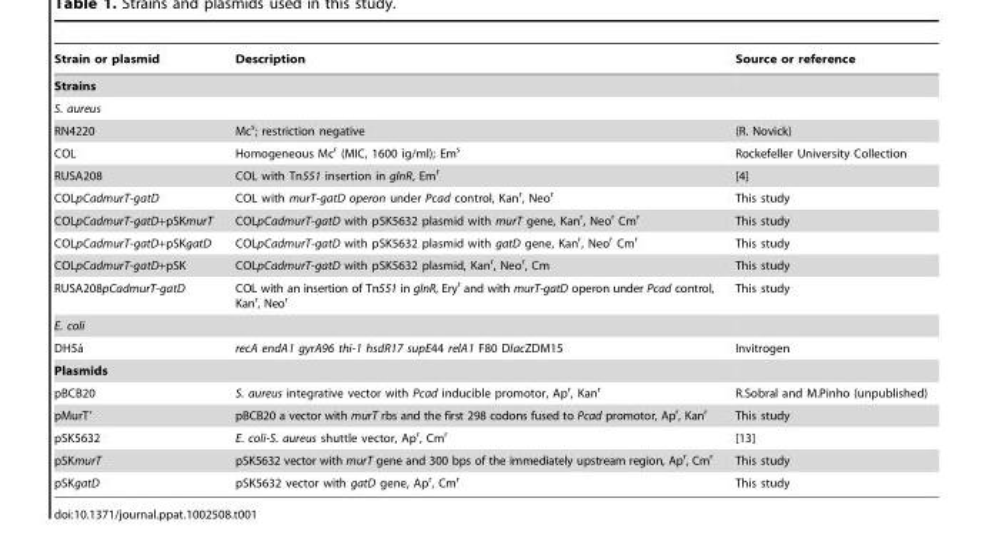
<table><thead><tr><td>Strain or plasmid</td><td>Description</td><td>Source or reference</td></tr></thead><tbody><tr><td colspan="3">Strains</td></tr><tr><td colspan="3">S. aureus</td></tr><tr><td>RN4220</td><td>Mc<sup>s</sup>; restriction negative</td><td>(R. Novick)</td></tr><tr><td>COL</td><td>Homogeneous Mcr (MIC, 1600 ı`g/ml); Ems</td><td>Rockefeller University Collection</td></tr><tr><td>RUSA208</td><td>COL with Tn551 insertion in glnR, Em<sup>r</sup></td><td>[4]</td></tr><tr><td>COLpCadmurT-gatD</td><td>COL with murT-gatD operon under Pcad control, Kan<sup>r</sup>, Neo<sup>r</sup></td><td>This study</td></tr><tr><td>COLpCadmurT-gatD+pSKmurT</td><td>COLpCadmurT-gatD with pSK5632 plasmid with murT gene, Kan<sup>r</sup>, Neo<sup>r</sup> Cm<sup>r</sup></td><td>This study</td></tr><tr><td>COLpCadmurT-gatD+pSKgatD</td><td>COLpCadmurT-gatD with pSK5632 plasmid with gatD gene, Kan<sup>r</sup>, Neo<sup>r</sup> Cm<sup>r</sup></td><td>This study</td></tr><tr><td>COLpCadmurT-gatD+pSK</td><td>COLpCadmurT-gatD with pSK5632 plasmid, Kan<sup>r</sup>, Neo<sup>r</sup>, Cm</td><td>This study</td></tr><tr><td>RUSA208pCadmurT-gatD</td><td>COL with an insertion of Tn551 in glnR, Ery<sup>r</sup> and with murT-gatD operon under Pcad control, Kan<sup>r</sup>, Neo<sup>r</sup></td><td>This study</td></tr><tr><td colspan="3">E. coli</td></tr><tr><td>DH5a´</td><td>recA endA1 gyrA96 thi-1 hsdR17 supE44 relA1 F80 DlacZDM15</td><td>Invitrogen</td></tr><tr><td colspan="3">Plasmids</td></tr><tr><td>pBCB20</td><td>S. aureus integrative vector with Pcad inducible promotor, Ap<sup>r</sup>, Kan<sup>r</sup></td><td>R.Sobral and M.Pinho (unpublished)</td></tr><tr><td>pMurT′</td><td>pBCB20 a vector with murT rbs and the first 298 codons fused to Pcad promotor, Ap<sup>r</sup>, Kan<sup>r</sup></td><td>This study</td></tr><tr><td>pSK5632</td><td>E. coli-S. aureus shuttle vector, Ap<sup>r</sup>, Cm<sup>r</sup></td><td>[13]</td></tr><tr><td>pSKmurT</td><td>pSK5632 vector with murT gene and 300 bps of the immediately upstream region, Ap<sup>r</sup>, Cm<sup>r</sup></td><td>This study</td></tr><tr><td>pSKgatD</td><td>pSK5632 vector with gatD gene, Ap<sup>r</sup>, Cm<sup>r</sup></td><td>This study</td></tr></tbody></table>